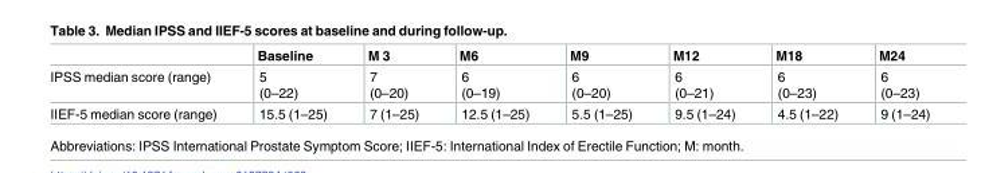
<table><thead><tr><td></td><td>Baseline</td><td>M 3</td><td>M6</td><td>M9</td><td>M12</td><td>M18</td><td>M24</td></tr></thead><tbody><tr><td>IPSS median score (range)</td><td>5 (0–22)</td><td>7 (0–20)</td><td>6 (0–19)</td><td>6 (0–20)</td><td>6 (0–21)</td><td>6 (0–23)</td><td>6 (0–23)</td></tr><tr><td>IIEF-5 median score (range)</td><td>15.5 (1–25)</td><td>7 (1–25)</td><td>12.5 (1–25)</td><td>5.5 (1–25)</td><td>9.5 (1–24)</td><td>4.5 (1–22)</td><td>9 (1–24)</td></tr></tbody></table>